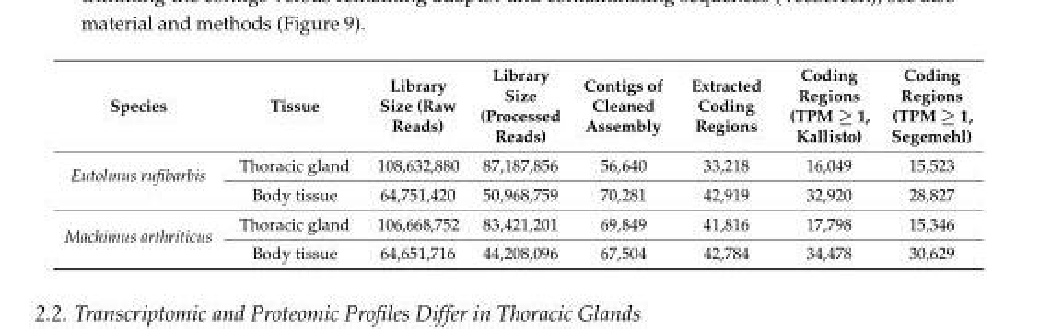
<table><thead><tr><td>Species</td><td>Tissue</td><td>Library Size (Raw Reads)</td><td>Library Size (Processed Reads)</td><td>Contigs of Cleaned Assembly</td><td>Extracted Coding Regions</td><td>Coding Regions (TPM ≥ 1, Kallisto)</td><td>Coding Regions (TPM ≥ 1, Segemehl)</td></tr></thead><tbody><tr><td rowspan="2">Eutolmus rufibarbis</td><td>Thoracic gland</td><td>108,632,880</td><td>87,187,856</td><td>56,640</td><td>33,218</td><td>16,049</td><td>15,523</td></tr><tr><td>Body tissue</td><td>64,751,420</td><td>50,968,759</td><td>70,281</td><td>42,919</td><td>32,920</td><td>28,827</td></tr><tr><td rowspan="2">Machimus arthriticus</td><td>Thoracic gland</td><td>106,668,752</td><td>83,421,201</td><td>69,849</td><td>41,816</td><td>17,798</td><td>15,346</td></tr><tr><td>Body tissue</td><td>64,651,716</td><td>44,208,096</td><td>67,504</td><td>42,784</td><td>34,478</td><td>30,629</td></tr></tbody></table>